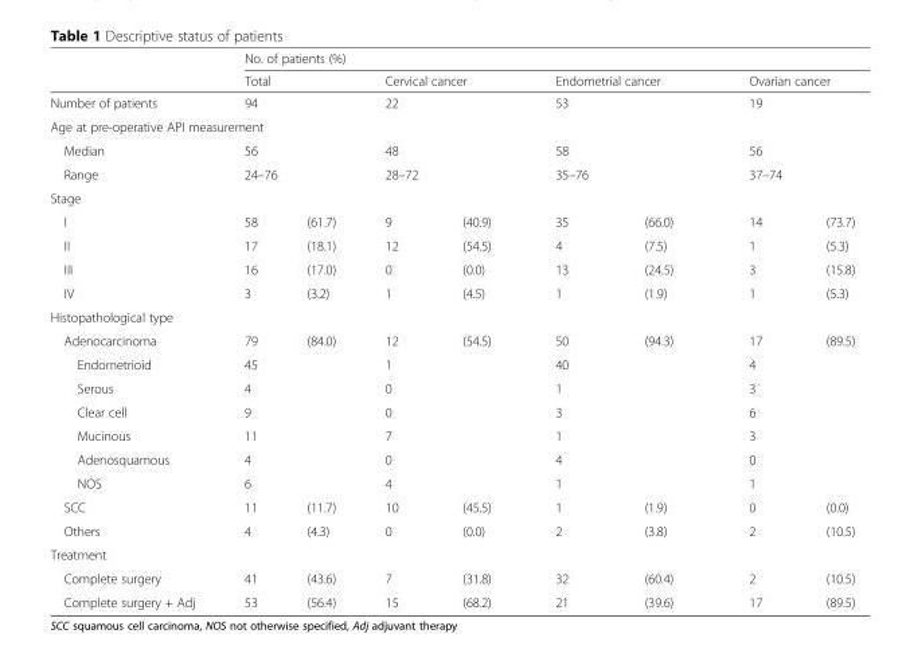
<table><thead><tr><td rowspan="2"></td><td colspan="8">No. of patients (%)</td></tr><tr><td colspan="2">Total</td><td colspan="2">Cervical cancer</td><td colspan="2">Endometrial cancer</td><td colspan="2">Ovarian cancer</td></tr></thead><tbody><tr><td>Number of patients</td><td colspan="2">94</td><td colspan="2">22</td><td colspan="2">53</td><td colspan="2">19</td></tr><tr><td colspan="9">Age at pre-operative API measurement</td></tr><tr><td>Median</td><td colspan="2">56</td><td colspan="2">48</td><td colspan="2">58</td><td colspan="2">56</td></tr><tr><td>Range</td><td colspan="2">24–76</td><td colspan="2">28–72</td><td colspan="2">35–76</td><td colspan="2">37–74</td></tr><tr><td colspan="9">Stage</td></tr><tr><td>I</td><td>58</td><td>(61.7)</td><td>9</td><td>(40.9)</td><td>35</td><td>(66.0)</td><td>14</td><td>(73.7)</td></tr><tr><td>II</td><td>17</td><td>(18.1)</td><td>12</td><td>(54.5)</td><td>4</td><td>(7.5)</td><td>1</td><td>(5.3)</td></tr><tr><td>III</td><td>16</td><td>(17.0)</td><td>0</td><td>(0.0)</td><td>13</td><td>(24.5)</td><td>3</td><td>(15.8)</td></tr><tr><td>IV</td><td>3</td><td>(3.2)</td><td>1</td><td>(4.5)</td><td>1</td><td>(1.9)</td><td>1</td><td>(5.3)</td></tr><tr><td colspan="9">Histopathological type</td></tr><tr><td>Adenocarcinoma</td><td>79</td><td>(84.0)</td><td>12</td><td>(54.5)</td><td>50</td><td>(94.3)</td><td>17</td><td>(89.5)</td></tr><tr><td>Endometrioid</td><td>45</td><td></td><td>1</td><td></td><td>40</td><td></td><td>4</td><td></td></tr><tr><td>Serous</td><td>4</td><td></td><td>0</td><td></td><td>1</td><td></td><td>3</td><td></td></tr><tr><td>Clear cell</td><td>9</td><td></td><td>0</td><td></td><td>3</td><td></td><td>6</td><td></td></tr><tr><td>Mucinous</td><td>11</td><td></td><td>7</td><td></td><td>1</td><td></td><td>3</td><td></td></tr><tr><td>Adenosquamous</td><td>4</td><td></td><td>0</td><td></td><td>4</td><td></td><td>0</td><td></td></tr><tr><td>NOS</td><td>6</td><td></td><td>4</td><td></td><td>1</td><td></td><td>1</td><td></td></tr><tr><td>SCC</td><td>11</td><td>(11.7)</td><td>10</td><td>(45.5)</td><td>1</td><td>(1.9)</td><td>0</td><td>(0.0)</td></tr><tr><td>Others</td><td>4</td><td>(4.3)</td><td>0</td><td>(0.0)</td><td>2</td><td>(3.8)</td><td>2</td><td>(10.5)</td></tr><tr><td colspan="9">Treatment</td></tr><tr><td>Complete surgery</td><td>41</td><td>(43.6)</td><td>7</td><td>(31.8)</td><td>32</td><td>(60.4)</td><td>2</td><td>(10.5)</td></tr><tr><td>Complete surgery + Adj</td><td>53</td><td>(56.4)</td><td>15</td><td>(68.2)</td><td>21</td><td>(39.6)</td><td>17</td><td>(89.5)</td></tr></tbody></table>